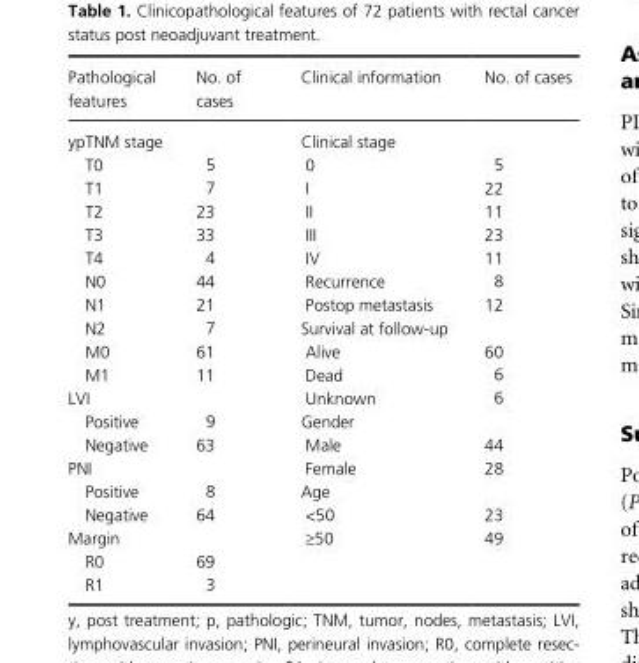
<table><thead><tr><td>Pathological features</td><td>No. of cases</td><td>Clinical information</td><td>No. of cases</td></tr></thead><tbody><tr><td colspan="2">ypTNM stage</td><td colspan="2">Clinical stage</td></tr><tr><td>T0</td><td>5</td><td>0</td><td>5</td></tr><tr><td>T1</td><td>7</td><td>I</td><td>22</td></tr><tr><td>T2</td><td>23</td><td>II</td><td>11</td></tr><tr><td>T3</td><td>33</td><td>III</td><td>23</td></tr><tr><td>T4</td><td>4</td><td>IV</td><td>11</td></tr><tr><td>N0</td><td>44</td><td>Recurrence</td><td>8</td></tr><tr><td>N1</td><td>21</td><td>Postop metastasis</td><td>12</td></tr><tr><td>N2</td><td>7</td><td colspan="2">Survival at follow- up</td></tr><tr><td>M0</td><td>61</td><td>Alive</td><td>60</td></tr><tr><td>M1</td><td>11</td><td>Dead</td><td>6</td></tr><tr><td colspan="2">LVI</td><td>Unknown</td><td>6</td></tr><tr><td>Positive</td><td>9</td><td colspan="2">Gender</td></tr><tr><td>Negative</td><td>63</td><td>Male</td><td>44</td></tr><tr><td colspan="2">PNI</td><td>Female</td><td>28</td></tr><tr><td>Positive</td><td>8</td><td colspan="2">Age</td></tr><tr><td>Negative</td><td>64</td><td>&lt;50</td><td>23</td></tr><tr><td colspan="2">Margin</td><td>≥50</td><td>49</td></tr><tr><td>R0</td><td>69</td><td></td><td></td></tr><tr><td>R1</td><td>3</td><td></td><td></td></tr></tbody></table>